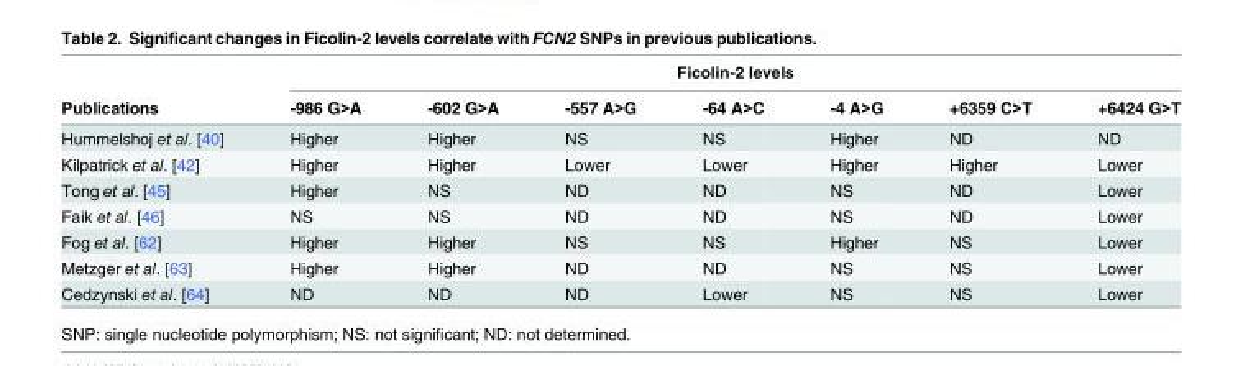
<table><thead><tr><td rowspan="2">Publications</td><td colspan="7">Ficolin-2 levels</td></tr><tr><td>-986 G&gt;A</td><td>-602 G&gt;A</td><td>-557 A&gt;G</td><td>-64 A&gt;C</td><td>-4 A&gt;G</td><td>+6359 C&gt;T</td><td>+6424 G&gt;T</td></tr></thead><tbody><tr><td>Hummelshoj et al. [40]</td><td>Higher</td><td>Higher</td><td>NS</td><td>NS</td><td>Higher</td><td>ND</td><td>ND</td></tr><tr><td>Kilpatrick et al. [42]</td><td>Higher</td><td>Higher</td><td>Lower</td><td>Lower</td><td>Higher</td><td>Higher</td><td>Lower</td></tr><tr><td>Tong et al. [45]</td><td>Higher</td><td>NS</td><td>ND</td><td>ND</td><td>NS</td><td>ND</td><td>Lower</td></tr><tr><td>Faik et al. [46]</td><td>NS</td><td>NS</td><td>ND</td><td>ND</td><td>NS</td><td>ND</td><td>Lower</td></tr><tr><td>Fog et al. [62]</td><td>Higher</td><td>Higher</td><td>NS</td><td>NS</td><td>Higher</td><td>NS</td><td>Lower</td></tr><tr><td>Metzger et al. [63]</td><td>Higher</td><td>Higher</td><td>ND</td><td>ND</td><td>NS</td><td>NS</td><td>Lower</td></tr><tr><td>Cedzynski et al. [64]</td><td>ND</td><td>ND</td><td>ND</td><td>Lower</td><td>NS</td><td>NS</td><td>Lower</td></tr></tbody></table>